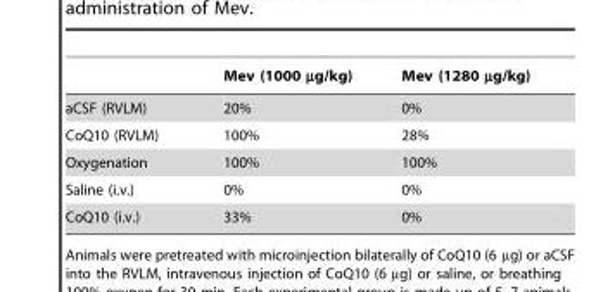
<table><thead><tr><td></td><td>Mev (1000 µg/kg)</td><td>Mev (1280 µg/kg)</td></tr></thead><tbody><tr><td>aCSF (RVLM)</td><td>20%</td><td>0%</td></tr><tr><td>CoQ10 (RVLM)</td><td>100%</td><td>28%</td></tr><tr><td>Oxygenation</td><td>100%</td><td>100%</td></tr><tr><td>Saline (i.v.)</td><td>0%</td><td>0%</td></tr><tr><td>CoQ10 (i.v.)</td><td>33%</td><td>0%</td></tr></tbody></table>